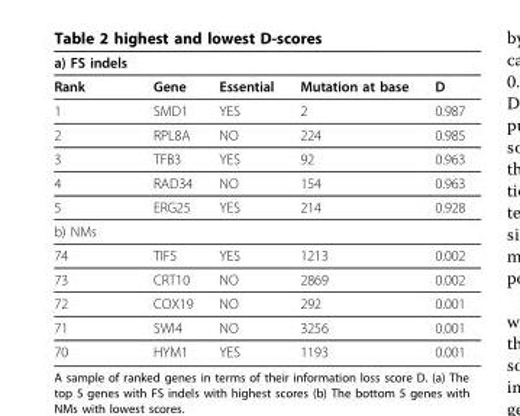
<table><thead><tr><td>a) FS indels</td><td></td><td></td><td></td><td></td></tr></thead><tbody><tr><td>Rank</td><td>Gene</td><td>Essential</td><td>Mutation at base</td><td>D</td></tr><tr><td>1</td><td>SMD1</td><td>YES</td><td>2</td><td>0.987</td></tr><tr><td>2</td><td>RPL8A</td><td>NO</td><td>224</td><td>0.985</td></tr><tr><td>3</td><td>TFB3</td><td>YES</td><td>92</td><td>0.963</td></tr><tr><td>4</td><td>RAD34</td><td>NO</td><td>154</td><td>0.963</td></tr><tr><td>5</td><td>ERG25</td><td>YES</td><td>214</td><td>0.928</td></tr><tr><td colspan="5">b) NMs</td></tr><tr><td>74</td><td>TIF5</td><td>YES</td><td>1213</td><td>0.002</td></tr><tr><td>73</td><td>CRT10</td><td>NO</td><td>2869</td><td>0.002</td></tr><tr><td>72</td><td>COX19</td><td>NO</td><td>292</td><td>0.001</td></tr><tr><td>71</td><td>SWI4</td><td>NO</td><td>3256</td><td>0.001</td></tr><tr><td>70</td><td>HYM1</td><td>YES</td><td>1193</td><td>0.001</td></tr></tbody></table>